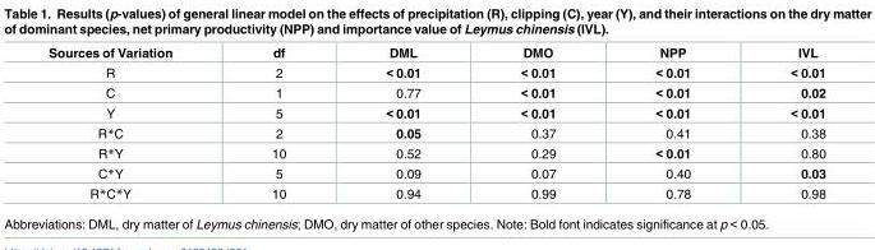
<table><thead><tr><td>Sources of Variation</td><td>df</td><td>DML</td><td>DMO</td><td>NPP</td><td>IVL</td></tr></thead><tbody><tr><td>R</td><td>2</td><td>&lt; 0.01</td><td>&lt; 0.01</td><td>&lt; 0.01</td><td>&lt; 0.01</td></tr><tr><td>C</td><td>1</td><td>0.77</td><td>&lt; 0.01</td><td>&lt; 0.01</td><td>0.02</td></tr><tr><td>Y</td><td>5</td><td>&lt; 0.01</td><td>&lt; 0.01</td><td>&lt; 0.01</td><td>&lt; 0.01</td></tr><tr><td>R*C</td><td>2</td><td>0.05</td><td>0.37</td><td>0.41</td><td>0.38</td></tr><tr><td>R*Y</td><td>10</td><td>0.52</td><td>0.29</td><td>&lt; 0.01</td><td>0.80</td></tr><tr><td>C*Y</td><td>5</td><td>0.09</td><td>0.07</td><td>0.40</td><td>0.03</td></tr><tr><td>R*C*Y</td><td>10</td><td>0.94</td><td>0.99</td><td>0.78</td><td>0.98</td></tr></tbody></table>